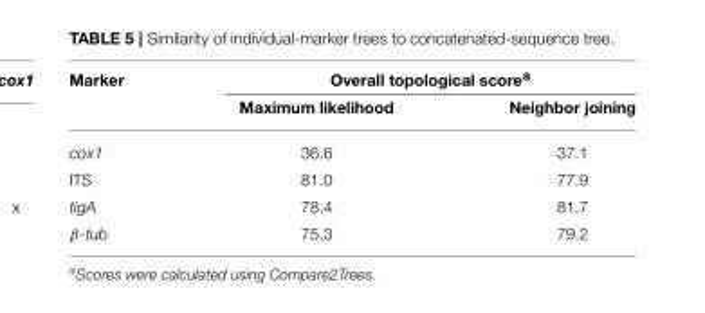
<table><thead><tr><td rowspan="2">Marker</td><td colspan="2">Overall topological score<sup>a</sup></td></tr><tr><td>Maximum likelihood</td><td>Neighbor joining</td></tr></thead><tbody><tr><td>cox1</td><td>36.6</td><td>37.1</td></tr><tr><td>ITS</td><td>81.0</td><td>77.9</td></tr><tr><td>tigA</td><td>78.4</td><td>81.7</td></tr><tr><td>β-tub</td><td>75.3</td><td>79.2</td></tr></tbody></table>